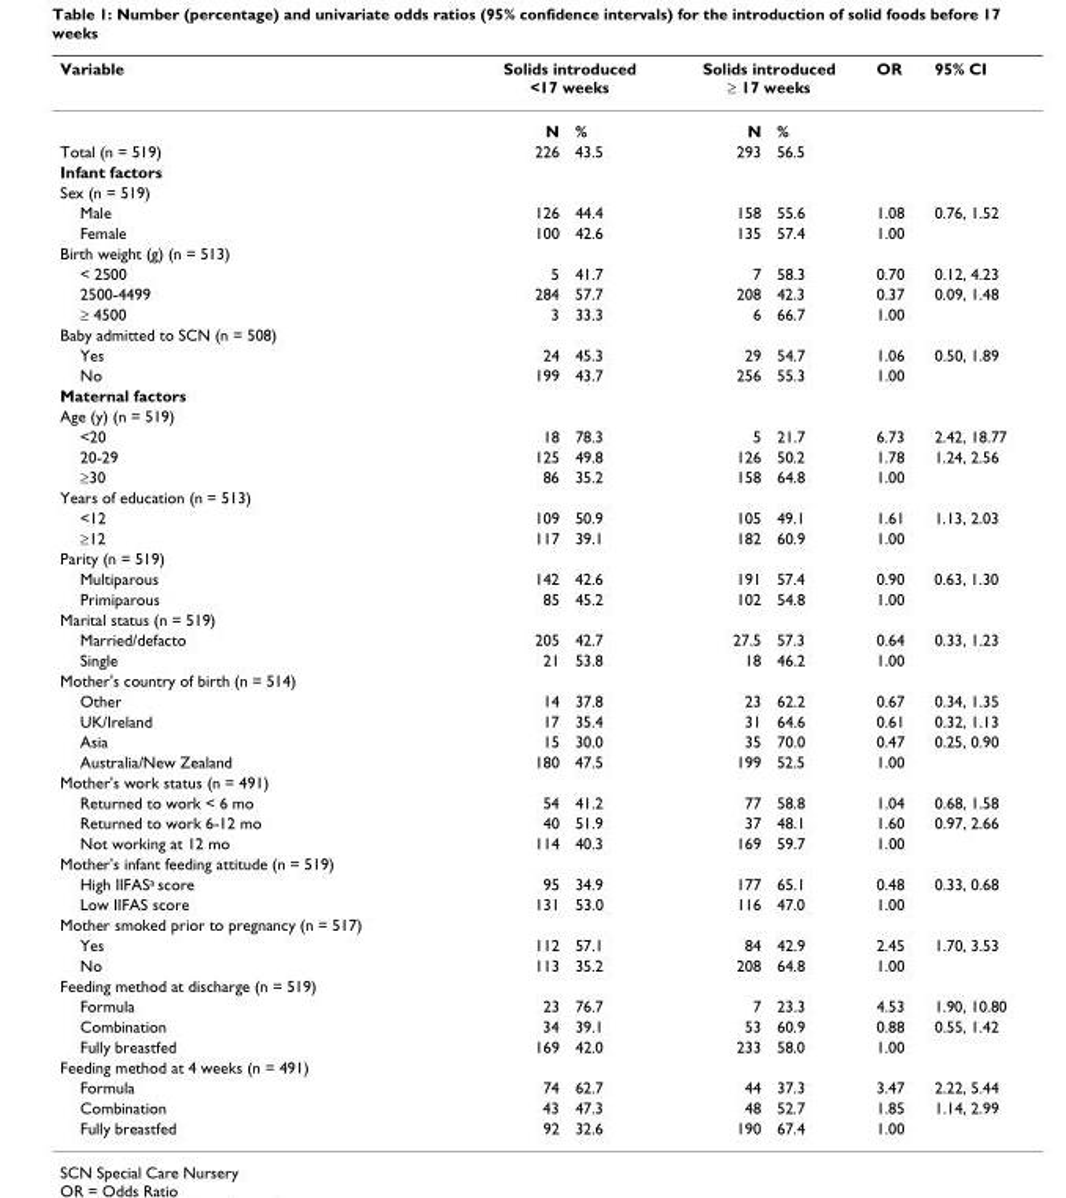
<table><thead><tr><td rowspan="2">Variable</td><td colspan="2">Solids introduced &lt;17 weeks</td><td colspan="2">Solids introduced ≥ 17 weeks</td><td rowspan="2">OR</td><td rowspan="2">95% CI</td></tr><tr><td>N</td><td>%</td><td>N</td><td>%</td></tr></thead><tbody><tr><td>Total (n = 519)</td><td>226</td><td>43.5</td><td>293</td><td>56.5</td><td></td><td></td></tr><tr><td colspan="7">Infant factors</td></tr><tr><td colspan="7">Sex (n = 519)</td></tr><tr><td>Male</td><td>126</td><td>44.4</td><td>158</td><td>55.6</td><td>1.08</td><td>0.76, 1.52</td></tr><tr><td>Female</td><td>100</td><td>42.6</td><td>135</td><td>57.4</td><td>1.00</td><td></td></tr><tr><td colspan="7">Birth weight (g) (n = 513)</td></tr><tr><td>&lt; 2500</td><td>5</td><td>41.7</td><td>7</td><td>58.3</td><td>0.70</td><td>0.12, 4.23</td></tr><tr><td>2500-4499</td><td>284</td><td>57.7</td><td>208</td><td>42.3</td><td>0.37</td><td>0.09, 1.48</td></tr><tr><td>≥ 4500</td><td>3</td><td>33.3</td><td>6</td><td>66.7</td><td>1.00</td><td></td></tr><tr><td colspan="7">Baby admitted to SCN (n = 508)</td></tr><tr><td>Yes</td><td>24</td><td>45.3</td><td>29</td><td>54.7</td><td>1.06</td><td>0.50, 1.89</td></tr><tr><td>No</td><td>199</td><td>43.7</td><td>256</td><td>55.3</td><td>1.00</td><td></td></tr><tr><td colspan="7">Maternal factors</td></tr><tr><td colspan="7">Age (y) (n = 519)</td></tr><tr><td>&lt;20</td><td>18</td><td>78.3</td><td>5</td><td>21.7</td><td>6.73</td><td>2.42, 18.77</td></tr><tr><td>20-29</td><td>125</td><td>49.8</td><td>126</td><td>50.2</td><td>1.78</td><td>1.24, 2.56</td></tr><tr><td>≥30</td><td>86</td><td>35.2</td><td>158</td><td>64.8</td><td>1.00</td><td></td></tr><tr><td colspan="7">Years of education (n = 513)</td></tr><tr><td>&lt;12</td><td>109</td><td>50.9</td><td>105</td><td>49.1</td><td>1.61</td><td>1.13, 2.03</td></tr><tr><td>≥12</td><td>117</td><td>39.1</td><td>182</td><td>60.9</td><td>1.00</td><td></td></tr><tr><td colspan="7">Parity (n = 519)</td></tr><tr><td>Multiparous</td><td>142</td><td>42.6</td><td>191</td><td>57.4</td><td>0.90</td><td>0.63, 1.30</td></tr><tr><td>Primiparous</td><td>85</td><td>45.2</td><td>102</td><td>54.8</td><td>1.00</td><td></td></tr><tr><td colspan="7">Marital status (n = 519)</td></tr><tr><td>Married/defacto</td><td>205</td><td>42.7</td><td>27.5</td><td>57.3</td><td>0.64</td><td>0.33, 1.23</td></tr><tr><td>Single</td><td>21</td><td>53.8</td><td>18</td><td>46.2</td><td>1.00</td><td></td></tr><tr><td colspan="7">Mother&#x27;s country of birth (n = 514)</td></tr><tr><td>Other</td><td>14</td><td>37.8</td><td>23</td><td>62.2</td><td>0.67</td><td>0.34, 1.35</td></tr><tr><td>UK/Ireland</td><td>17</td><td>35.4</td><td>31</td><td>64.6</td><td>0.61</td><td>0.32, 1.13</td></tr><tr><td>Asia</td><td>15</td><td>30.0</td><td>35</td><td>70.0</td><td>0.47</td><td>0.25, 0.90</td></tr><tr><td>Australia/New Zealand</td><td>180</td><td>47.5</td><td>199</td><td>52.5</td><td>1.00</td><td></td></tr><tr><td colspan="7">Mother&#x27;s work status (n = 491)</td></tr><tr><td>Returned to work &lt; 6 mo</td><td>54</td><td>41.2</td><td>77</td><td>58.8</td><td>1.04</td><td>0.68, 1.58</td></tr><tr><td>Returned to work 6-12 mo</td><td>40</td><td>51.9</td><td>37</td><td>48.1</td><td>1.60</td><td>0.97, 2.66</td></tr><tr><td>Not working at 12 mo</td><td>114</td><td>40.3</td><td>169</td><td>59.7</td><td>1.00</td><td></td></tr><tr><td colspan="7">Mother&#x27;s infant feeding attitude (n = 519)</td></tr><tr><td>High IIFAS<sup>a</sup> score</td><td>95</td><td>34.9</td><td>177</td><td>65.1</td><td>0.48</td><td>0.33, 0.68</td></tr><tr><td>Low IIFAS score</td><td>131</td><td>53.0</td><td>116</td><td>47.0</td><td>1.00</td><td></td></tr><tr><td colspan="7">Mother smoked prior to pregnancy (n = 517)</td></tr><tr><td>Yes</td><td>112</td><td>57.1</td><td>84</td><td>42.9</td><td>2.45</td><td>1.70, 3.53</td></tr><tr><td>No</td><td>113</td><td>35.2</td><td>208</td><td>64.8</td><td>1.00</td><td></td></tr><tr><td colspan="7">Feeding method at discharge (n = 519)</td></tr><tr><td>Formula</td><td>23</td><td>76.7</td><td>7</td><td>23.3</td><td>4.53</td><td>1.90, 10.80</td></tr><tr><td>Combination</td><td>34</td><td>39.1</td><td>53</td><td>60.9</td><td>0.88</td><td>0.55, 1.42</td></tr><tr><td>Fully breastfed</td><td>169</td><td>42.0</td><td>233</td><td>58.0</td><td>1.00</td><td></td></tr><tr><td colspan="7">Feeding method at 4 weeks (n = 491)</td></tr><tr><td>Formula</td><td>74</td><td>62.7</td><td>44</td><td>37.3</td><td>3.47</td><td>2.22, 5.44</td></tr><tr><td>Combination</td><td>43</td><td>47.3</td><td>48</td><td>52.7</td><td>1.85</td><td>1.14, 2.99</td></tr><tr><td>Fully breastfed</td><td>92</td><td>32.6</td><td>190</td><td>67.4</td><td>1.00</td><td></td></tr></tbody></table>